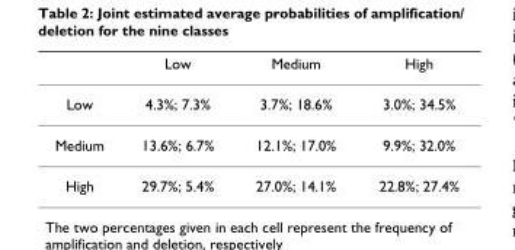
<table><thead><tr><td></td><td>Low</td><td>Medium</td><td>High</td></tr></thead><tbody><tr><td>Low</td><td>4.3%; 7.3%</td><td>3.7%; 18.6%</td><td>3.0%; 34.5%</td></tr><tr><td>Medium</td><td>13.6%; 6.7%</td><td>12.1%; 17.0%</td><td>9.9%; 32.0%</td></tr><tr><td>High</td><td>29.7%; 5.4%</td><td>27.0%; 14.1%</td><td>22.8%; 27.4%</td></tr></tbody></table>